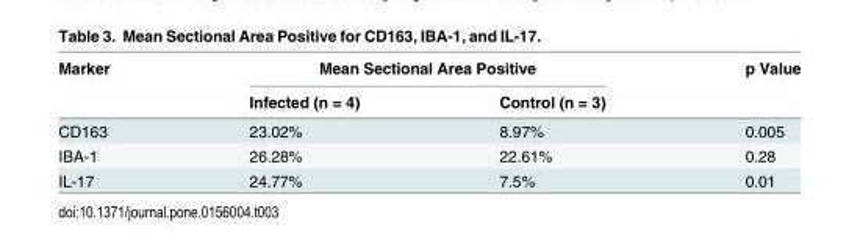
<table><thead><tr><td rowspan="2">Marker</td><td colspan="2">Mean Sectional Area Positive</td><td rowspan="2">p Value</td></tr><tr><td>Infected (n = 4)</td><td>Control (n = 3)</td></tr></thead><tbody><tr><td>CD163</td><td>23.02%</td><td>8.97%</td><td>0.005</td></tr><tr><td>IBA-1</td><td>26.28%</td><td>22.61%</td><td>0.28</td></tr><tr><td>IL-17</td><td>24.77%</td><td>7.5%</td><td>0.01</td></tr></tbody></table>